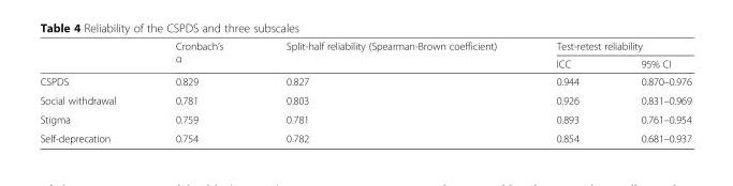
<table><thead><tr><td rowspan="2"></td><td rowspan="2">Cronbach’s α</td><td rowspan="2">Split-half reliability (Spearman-Brown coefficient)</td><td colspan="2">Test-retest reliability</td></tr><tr><td>ICC</td><td>95% CI</td></tr></thead><tbody><tr><td>CSPDS</td><td>0.829</td><td>0.827</td><td>0.944</td><td>0.870–0.976</td></tr><tr><td>Social withdrawal</td><td>0.781</td><td>0.803</td><td>0.926</td><td>0.831–0.969</td></tr><tr><td>Stigma</td><td>0.759</td><td>0.781</td><td>0.893</td><td>0.761–0.954</td></tr><tr><td>Self-deprecation</td><td>0.754</td><td>0.782</td><td>0.854</td><td>0.681–0.937</td></tr></tbody></table>